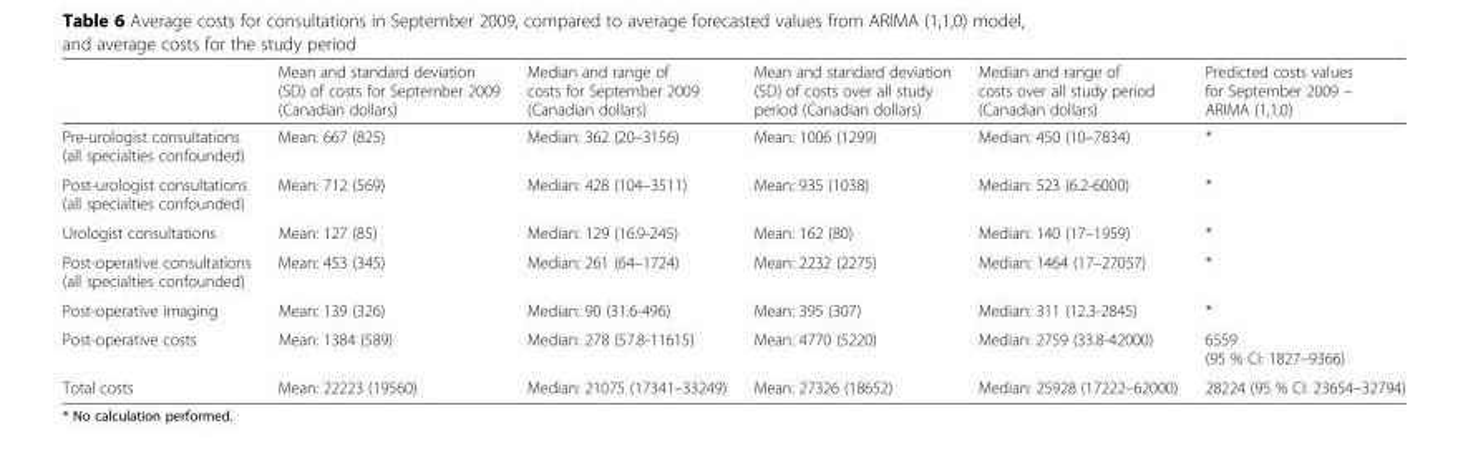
<table><thead><tr><td></td><td>Mean and standard deviation (SD) of costs for September 2009 (Canadian dollars)</td><td>Median and range of costs for September 2009 (Canadian dollars)</td><td>Mean and standard deviation (SD) of costs over all study period (Canadian dollars)</td><td>Median and range of costs over all study period (Canadian dollars)</td><td>Predicted costs values for September 2009 – ARIMA (1,1,0)</td></tr></thead><tbody><tr><td>Pre-urologist consultations (all specialties confounded)</td><td>Mean: 667 (825)</td><td>Median: 362 (20–3156)</td><td>Mean: 1006 (1299)</td><td>Median: 450 (10–7834)</td><td>*</td></tr><tr><td>Post-urologist consultations (all specialties confounded)</td><td>Mean: 712 (569)</td><td>Median: 428 (104–3511)</td><td>Mean: 935 (1038)</td><td>Median: 523 (6.2-6000)</td><td>*</td></tr><tr><td>Urologist consultations</td><td>Mean: 127 (85)</td><td>Median: 129 (16.9-245)</td><td>Mean: 162 (80)</td><td>Median: 140 (17–1959)</td><td>*</td></tr><tr><td>Post-operative consultations (all specialties confounded)</td><td>Mean: 453 (345)</td><td>Median: 261 (64–1724)</td><td>Mean: 2232 (2275)</td><td>Median: 1464 (17–27057)</td><td>*</td></tr><tr><td>Post-operative imaging</td><td>Mean: 139 (326)</td><td>Median: 90 (31.6-496)</td><td>Mean: 395 (307)</td><td>Median: 311 (12.3-2845)</td><td>*</td></tr><tr><td>Post-operative costs</td><td>Mean: 1384 (589)</td><td>Median: 278 (57.8-11615)</td><td>Mean: 4770 (5220)</td><td>Median: 2759 (33.8-42000)</td><td>6559 (95 % CI: 1827–9366)</td></tr><tr><td>Total costs</td><td>Mean: 22223 (19560)</td><td>Median: 21075 (17341–33249)</td><td>Mean: 27326 (18652)</td><td>Median: 25928 (17222–62000)</td><td>28224 (95 % CI: 23654–32794)</td></tr></tbody></table>